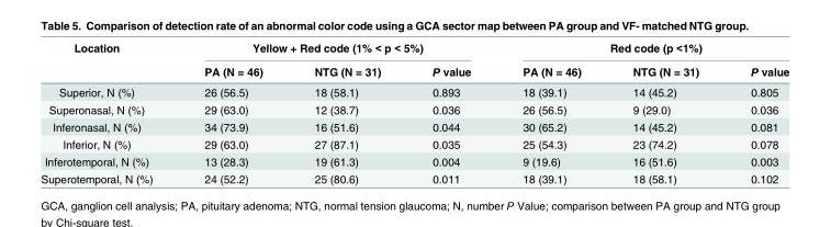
<table><thead><tr><td rowspan="2">Location</td><td colspan="3">Yellow + Red code (1% &lt; p &lt; 5%)</td><td colspan="3">Red code (p &lt;1%)</td></tr><tr><td>PA (N = 46)</td><td>NTG (N = 31)</td><td>P value</td><td>PA (N = 46)</td><td>NTG (N = 31)</td><td>P value</td></tr></thead><tbody><tr><td>Superior, N (%)</td><td>26 (56.5)</td><td>18 (58.1)</td><td>0.893</td><td>18 (39.1)</td><td>14 (45.2)</td><td>0.805</td></tr><tr><td>Superonasal, N (%)</td><td>29 (63.0)</td><td>12 (38.7)</td><td>0.036</td><td>26 (56.5)</td><td>9 (29.0)</td><td>0.036</td></tr><tr><td>Inferonasal, N (%)</td><td>34 (73.9)</td><td>16 (51.6)</td><td>0.044</td><td>30 (65.2)</td><td>14 (45.2)</td><td>0.081</td></tr><tr><td>Inferior, N (%)</td><td>29 (63.0)</td><td>27 (87.1)</td><td>0.035</td><td>25 (54.3)</td><td>23 (74.2)</td><td>0.078</td></tr><tr><td>Inferotemporal, N (%)</td><td>13 (28.3)</td><td>19 (61.3)</td><td>0.004</td><td>9 (19.6)</td><td>16 (51.6)</td><td>0.003</td></tr><tr><td>Superotemporal, N (%)</td><td>24 (52.2)</td><td>25 (80.6)</td><td>0.011</td><td>18 (39.1)</td><td>18 (58.1)</td><td>0.102</td></tr></tbody></table>